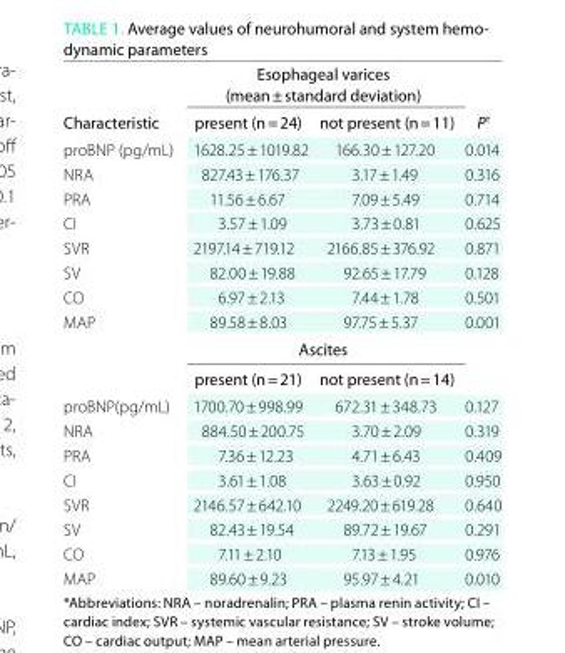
<table><thead><tr><td rowspan="2">Characteristic</td><td colspan="2">esophageal varices (mean ± standard deviation)</td><td rowspan="2">P<sup>†</sup></td></tr><tr><td>present (n = 24)</td><td>not present (n = 11)</td></tr></thead><tbody><tr><td>proBNP (pg/mL)</td><td>1628.25 ± 1019.82</td><td>166.30 ± 127.20</td><td>0.014</td></tr><tr><td>NRA</td><td>827.43 ± 176.37</td><td>3.17 ± 1.49</td><td>0.316</td></tr><tr><td>PRA</td><td>11.56 ± 6.67</td><td>7.09 ± 5.49</td><td>0.714</td></tr><tr><td>CI</td><td>3.57 ± 1.09</td><td>3.73 ± 0.81</td><td>0.625</td></tr><tr><td>SVR</td><td>2197.14 ± 719.12</td><td>2166.85 ± 376.92</td><td>0.871</td></tr><tr><td>SV</td><td>82.00 ± 19.88</td><td>92.65 ± 17.79</td><td>0.128</td></tr><tr><td>CO</td><td>6.97 ± 2.13</td><td>7.44 ± 1.78</td><td>0.501</td></tr><tr><td rowspan="3">MAP</td><td>89.58 ± 8.03</td><td>97.75 ± 5.37</td><td>0.001</td></tr><tr><td colspan="2">Ascites</td><td></td></tr><tr><td>present (n = 21)</td><td>not present (n = 14)</td><td></td></tr><tr><td>proBNP(pg/mL)</td><td>1700.70 ± 998.99</td><td>672.31 ± 348.73</td><td>0.127</td></tr><tr><td>NRA</td><td>884.50 ± 200.75</td><td>3.70 ± 2.09</td><td>0.319</td></tr><tr><td>PRA</td><td>7.36 ± 12.23</td><td>4.71 ± 6.43</td><td>0.409</td></tr><tr><td>CI</td><td>3.61 ± 1.08</td><td>3.63 ± 0.92</td><td>0.950</td></tr><tr><td>SVR</td><td>2146.57 ± 642.10</td><td>2249.20 ± 619.28</td><td>0.640</td></tr><tr><td>SV</td><td>82.43 ± 19.54</td><td>89.72 ± 19.67</td><td>0.291</td></tr><tr><td>CO</td><td>7.11 ± 2.10</td><td>7.13 ± 1.95</td><td>0.976</td></tr><tr><td>MAP</td><td>89.60 ± 9.23</td><td>95.97 ± 4.21</td><td>0.010</td></tr></tbody></table>